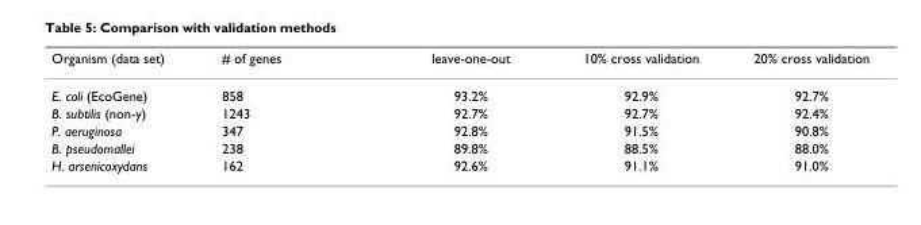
<table><thead><tr><td>Organism (data set)</td><td># of genes</td><td>leave-one-out</td><td>10% cross validation</td><td>20% cross validation</td></tr></thead><tbody><tr><td>E. coli (EcoGene)</td><td>858</td><td>93.2%</td><td>92.9%</td><td>92.7%</td></tr><tr><td>B. subtilis (non-y)</td><td>1243</td><td>92.7%</td><td>92.7%</td><td>92.4%</td></tr><tr><td>P. aeruginosa</td><td>347</td><td>92.8%</td><td>91.5%</td><td>90.8%</td></tr><tr><td>B. pseudomallei</td><td>238</td><td>89.8%</td><td>88.5%</td><td>88.0%</td></tr><tr><td>H. arsenicoxydans</td><td>162</td><td>92.6%</td><td>91.1%</td><td>91.0%</td></tr></tbody></table>